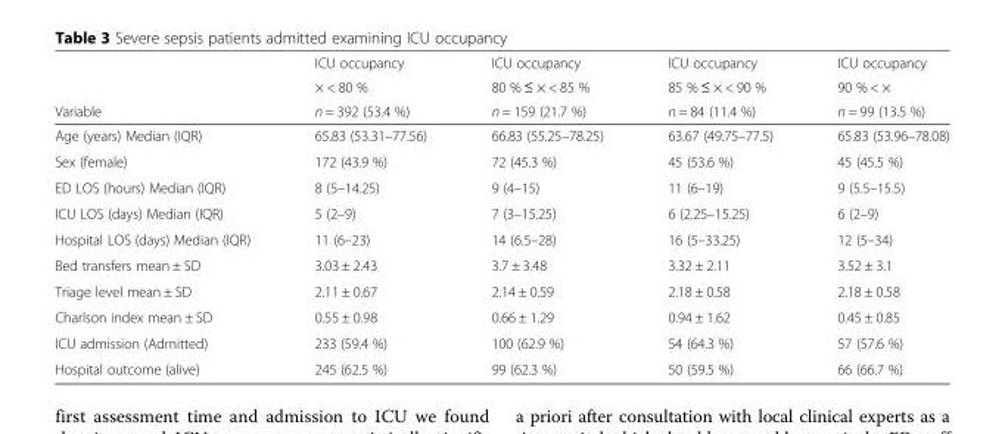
<table><thead><tr><td rowspan="3">Variable</td><td rowspan="3">ICU occupancy × &lt; 80 % n = 392 (53.4 %)</td><td rowspan="3">ICU occupancy 80 % ≤ × &lt; 85 % n = 159 (21.7 %)</td><td rowspan="3">ICU occupancy 85 % ≤ × &lt; 90 % n = 84 (11.4 %)</td><td rowspan="3">ICU occupancy 90 % &lt; × n = 99 (13.5 %)</td></tr><tr></tr><tr></tr></thead><tbody><tr><td>Age (years) Median (IQR)</td><td>65.83 (53.31–77.56)</td><td>66.83 (55.25–78.25)</td><td>63.67 (49.75–77.5)</td><td>65.83 (53.96–78.08)</td></tr><tr><td>Sex (female)</td><td>172 (43.9 %)</td><td>72 (45.3 %)</td><td>45 (53.6 %)</td><td>45 (45.5 %)</td></tr><tr><td>ED LOS (hours) Median (IQR)</td><td>8 (5–14.25)</td><td>9 (4–15)</td><td>11 (6–19)</td><td>9 (5.5–15.5)</td></tr><tr><td>ICU LOS (days) Median (IQR)</td><td>5 (2–9)</td><td>7 (3–15.25)</td><td>6 (2.25–15.25)</td><td>6 (2–9)</td></tr><tr><td>Hospital LOS (days) Median (IQR)</td><td>11 (6–23)</td><td>14 (6.5–28)</td><td>16 (5–33.25)</td><td>12 (5–34)</td></tr><tr><td>Bed transfers mean ± SD</td><td>3.03 ± 2.43</td><td>3.7 ± 3.48</td><td>3.32 ± 2.11</td><td>3.52 ± 3.1</td></tr><tr><td>Triage level mean ± SD</td><td>2.11 ± 0.67</td><td>2.14 ± 0.59</td><td>2.18 ± 0.58</td><td>2.18 ± 0.58</td></tr><tr><td>Charlson index mean ± SD</td><td>0.55 ± 0.98</td><td>0.66 ± 1.29</td><td>0.94 ± 1.62</td><td>0.45 ± 0.85</td></tr><tr><td>ICU admission (Admitted)</td><td>233 (59.4 %)</td><td>100 (62.9 %)</td><td>54 (64.3 %)</td><td>57 (57.6 %)</td></tr><tr><td>Hospital outcome (alive)</td><td>245 (62.5 %)</td><td>99 (62.3 %)</td><td>50 (59.5 %)</td><td>66 (66.7 %)</td></tr></tbody></table>